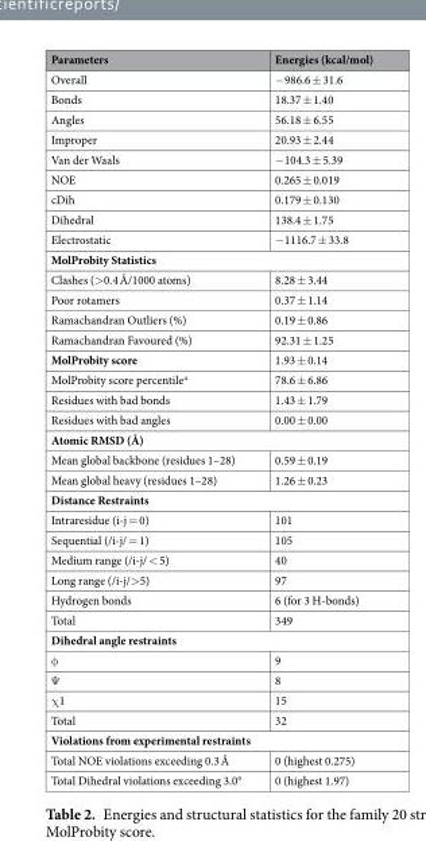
<table><thead><tr><td>Parameters</td><td>Energies (kcal/mol)</td></tr></thead><tbody><tr><td>Overall</td><td>−986.6 ± 31.6</td></tr><tr><td>Bonds</td><td>18.37 ± 1.40</td></tr><tr><td>Angles</td><td>56.18 ± 6.55</td></tr><tr><td>Improper</td><td>20.93 ± 2.44</td></tr><tr><td>Van der Waals</td><td>−104.3 ± 5.39</td></tr><tr><td>NOE</td><td>0.265 ± 0.019</td></tr><tr><td>cDih</td><td>0.179 ± 0.130</td></tr><tr><td>Dihedral</td><td>138.4 ± 1.75</td></tr><tr><td>Electrostatic</td><td>−1116.7 ± 33.8</td></tr><tr><td colspan="2">MolProbity Statistics</td></tr><tr><td>Clashes (&gt;0.4 Å/1000 atoms)</td><td>8.28 ± 3.44</td></tr><tr><td>Poor rotamers</td><td>0.37 ± 1.14</td></tr><tr><td>Ramachandran Outliers (%)</td><td>0.19 ± 0.86</td></tr><tr><td>Ramachandran Favoured (%)</td><td>92.31 ± 1.25</td></tr><tr><td>MolProbity score</td><td>1.93 ± 0.14</td></tr><tr><td>MolProbity score percentile<sup>a</sup></td><td>78.6 ± 6.86</td></tr><tr><td>Residues with bad bonds</td><td>1.43 ± 1.79</td></tr><tr><td>Residues with bad angles</td><td>0.00 ± 0.00</td></tr><tr><td colspan="2">Atomic RMSD (Å)</td></tr><tr><td>Mean global backbone (residues 1–28)</td><td>0.59 ± 0.19</td></tr><tr><td>Mean global heavy (residues 1–28)</td><td>1.26 ± 0.23</td></tr><tr><td colspan="2">Distance Restraints</td></tr><tr><td>Intraresidue (i-j = 0)</td><td>101</td></tr><tr><td>Sequential (/i-j/ = 1)</td><td>105</td></tr><tr><td>Medium range (/i-j/ &lt; 5)</td><td>40</td></tr><tr><td>Long range (/i-j/&gt;5)</td><td>97</td></tr><tr><td>Hydrogen bonds</td><td>6 (for 3 H-bonds)</td></tr><tr><td>Total</td><td>349</td></tr><tr><td colspan="2">Dihedral angle restraints</td></tr><tr><td>φ</td><td>9</td></tr><tr><td>Ψ</td><td>8</td></tr><tr><td>χ1</td><td>15</td></tr><tr><td>Total</td><td>32</td></tr><tr><td colspan="2">Violations from experimental restraints</td></tr><tr><td>Total NOE violations exceeding 0.3 Å</td><td>0 (highest 0.275)</td></tr><tr><td>Total Dihedral violations exceeding 3.0°</td><td>0 (highest 1.97)</td></tr></tbody></table>